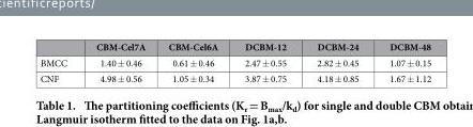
<table><thead><tr><td></td><td>CBM-Cel7A</td><td>CBM-Cel6A</td><td>DCBM-12</td><td>DCBM-24</td><td>DCBM-48</td></tr></thead><tbody><tr><td>BMCC</td><td>1.40 ± 0.46</td><td>0.61 ± 0.46</td><td>2.47 ± 0.55</td><td>2.82 ± 0.45</td><td>1.07 ± 0.15</td></tr><tr><td>CNF</td><td>4.98 ± 0.56</td><td>1.05 ± 0.34</td><td>3.87 ± 0.75</td><td>4.18 ± 0.85</td><td>1.67 ± 1.12</td></tr></tbody></table>